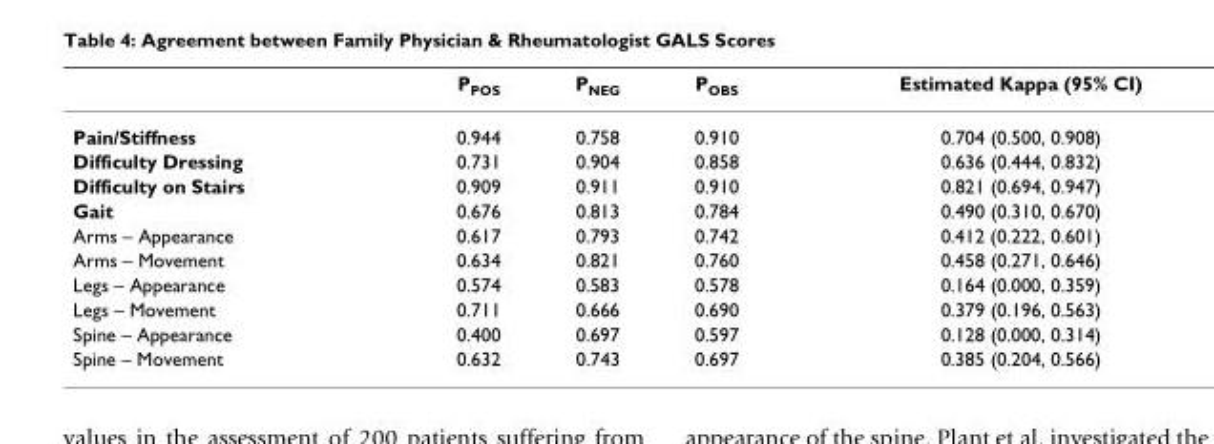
<table><thead><tr><td></td><td>P<sub>POS</sub></td><td>P<sub>NEG</sub></td><td>P<sub>OBS</sub></td><td>Estimated Kappa (95% CI)</td></tr></thead><tbody><tr><td>Pain/Stiffness</td><td>0.944</td><td>0.758</td><td>0.910</td><td>0.704 (0.500, 0.908)</td></tr><tr><td>Difficulty Dressing</td><td>0.731</td><td>0.904</td><td>0.858</td><td>0.636 (0.444, 0.832)</td></tr><tr><td>Difficulty on Stairs</td><td>0.909</td><td>0.911</td><td>0.910</td><td>0.821 (0.694, 0.947)</td></tr><tr><td>Gait</td><td>0.676</td><td>0.813</td><td>0.784</td><td>0.490 (0.310, 0.670)</td></tr><tr><td>Arms – Appearance</td><td>0.617</td><td>0.793</td><td>0.742</td><td>0.412 (0.222, 0.601)</td></tr><tr><td>Arms – Movement</td><td>0.634</td><td>0.821</td><td>0.760</td><td>0.458 (0.271, 0.646)</td></tr><tr><td>Legs – Appearance</td><td>0.574</td><td>0.583</td><td>0.578</td><td>0.164 (0.000, 0.359)</td></tr><tr><td>Legs – Movement</td><td>0.711</td><td>0.666</td><td>0.690</td><td>0.379 (0.196, 0.563)</td></tr><tr><td>Spine – Appearance</td><td>0.400</td><td>0.697</td><td>0.597</td><td>0.128 (0.000, 0.314)</td></tr><tr><td>Spine – Movement</td><td>0.632</td><td>0.743</td><td>0.697</td><td>0.385 (0.204, 0.566)</td></tr></tbody></table>